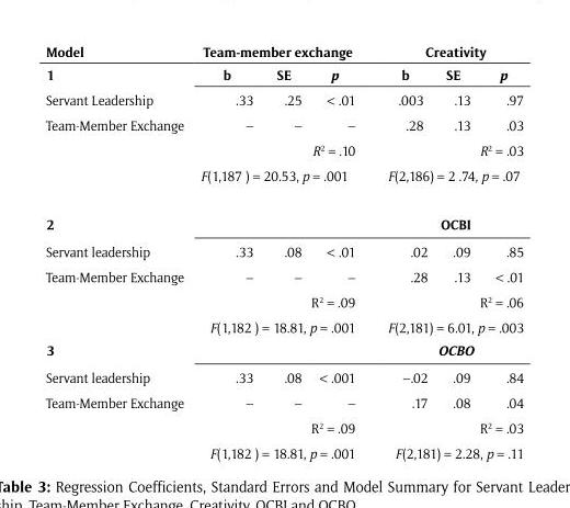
<table><thead><tr><td rowspan="2">Model 1</td><td colspan="3">Team-member exchange</td><td colspan="3">Creativity</td></tr><tr><td>b</td><td>SE</td><td>p</td><td>b</td><td>SE</td><td>p</td></tr></thead><tbody><tr><td>Servant Leadership</td><td>.33</td><td>.25</td><td>&lt; .01</td><td>.003</td><td>.13</td><td>.97</td></tr><tr><td rowspan="3">Team-Member Exchange</td><td>–</td><td>–</td><td>–</td><td>.28</td><td>.13</td><td>.03</td></tr><tr><td colspan="3">R<sup>2</sup> = .10</td><td colspan="3">R<sup>2</sup> = .03</td></tr><tr><td colspan="3">F(1,187 ) = 20.53, p = .001</td><td colspan="3">F(2,186) = 2 .74, p = .07</td></tr><tr><td>2</td><td></td><td></td><td></td><td></td><td>OCBI</td><td></td></tr><tr><td>Servant leadership</td><td>.33</td><td>.08</td><td>&lt; .01</td><td>.02</td><td>.09</td><td>.85</td></tr><tr><td rowspan="3">Team-Member Exchange</td><td>–</td><td>–</td><td>–</td><td>.28</td><td>.13</td><td>&lt; .01</td></tr><tr><td colspan="3">R<sup>2</sup> = .09</td><td colspan="3">R<sup>2</sup> = .06</td></tr><tr><td colspan="3">F(1,182 ) = 18.81, p = .001</td><td colspan="3">F(2,181) = 6.01, p = .003</td></tr><tr><td>3</td><td></td><td></td><td></td><td></td><td>OCBO</td><td></td></tr><tr><td>Servant leadership</td><td>.33</td><td>.08</td><td>&lt; .001</td><td>–.02</td><td>.09</td><td>.84</td></tr><tr><td rowspan="3">Team-Member Exchange</td><td>–</td><td>–</td><td>–</td><td>.17</td><td>.08</td><td>.04</td></tr><tr><td colspan="3">R<sup>2</sup> = .09</td><td colspan="3">R<sup>2</sup> = .03</td></tr><tr><td colspan="3">F(1,182 ) = 18.81, p = .001</td><td colspan="3">F(2,181) = 2.28, p = .11</td></tr></tbody></table>